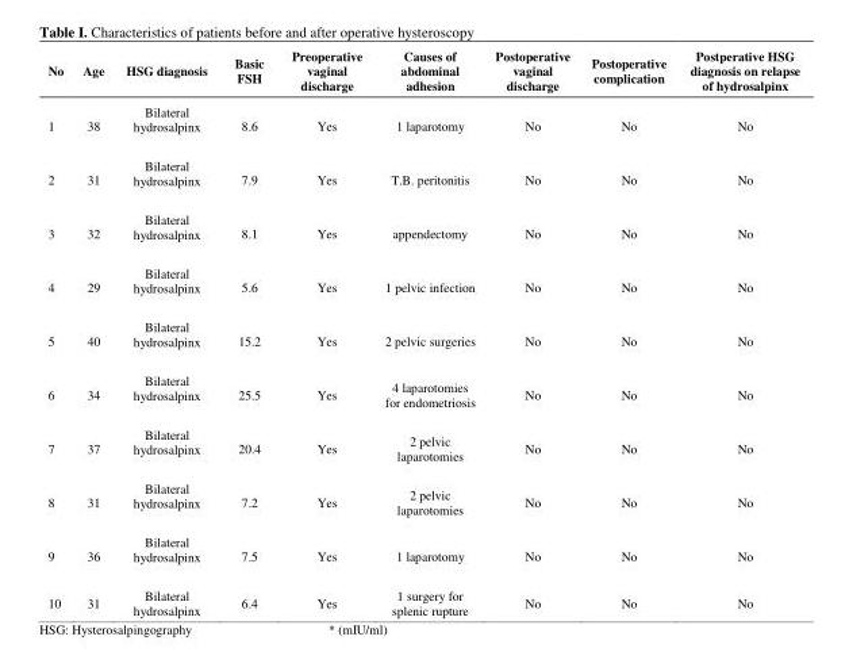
<table><thead><tr><td>No</td><td>Age</td><td>HSG diagnosis</td><td>Basic FSH</td><td>Preoperative vaginal discharge</td><td>Causes of abdominal adhesion</td><td>Postoperative vaginal discharge</td><td>Postoperative complication</td><td>Postperative HSG diagnosis on relapse of hydrosalpinx</td></tr></thead><tbody><tr><td>1</td><td>38</td><td>Bilateral hydrosalpinx</td><td>8.6</td><td>Yes</td><td>1 laparotomy</td><td>No</td><td>No</td><td>No</td></tr><tr><td>2</td><td>31</td><td>Bilateral hydrosalpinx</td><td>7.9</td><td>Yes</td><td>T.B. peritonitis</td><td>No</td><td>No</td><td>No</td></tr><tr><td>3</td><td>32</td><td>Bilateral hydrosalpinx</td><td>8.1</td><td>Yes</td><td>appendectomy</td><td>No</td><td>No</td><td>No</td></tr><tr><td>4</td><td>29</td><td>Bilateral hydrosalpinx</td><td>5.6</td><td>Yes</td><td>1 pelvic infection</td><td>No</td><td>No</td><td>No</td></tr><tr><td>5</td><td>40</td><td>Bilateral hydrosalpinx</td><td>15.2</td><td>Yes</td><td>2 pelvic surgeries</td><td>No</td><td>No</td><td>No</td></tr><tr><td>6</td><td>34</td><td>Bilateral hydrosalpinx</td><td>25.5</td><td>Yes</td><td>4 laparotomies for endometriosis</td><td>No</td><td>No</td><td>No</td></tr><tr><td>7</td><td>37</td><td>Bilateral hydrosalpinx</td><td>20.4</td><td>Yes</td><td>2 pelvic laparotomies</td><td>No</td><td>No</td><td>No</td></tr><tr><td>8</td><td>31</td><td>Bilateral hydrosalpinx</td><td>7.2</td><td>Yes</td><td>2 pelvic laparotomies</td><td>No</td><td>No</td><td>No</td></tr><tr><td>9</td><td>36</td><td>Bilateral hydrosalpinx</td><td>7.5</td><td>Yes</td><td>1 laparotomy</td><td>No</td><td>No</td><td>No</td></tr><tr><td>10</td><td>31</td><td>Bilateral hydrosalpinx</td><td>6.4</td><td>Yes</td><td>1 surgery for splenic rupture</td><td>No</td><td>No</td><td>No</td></tr></tbody></table>